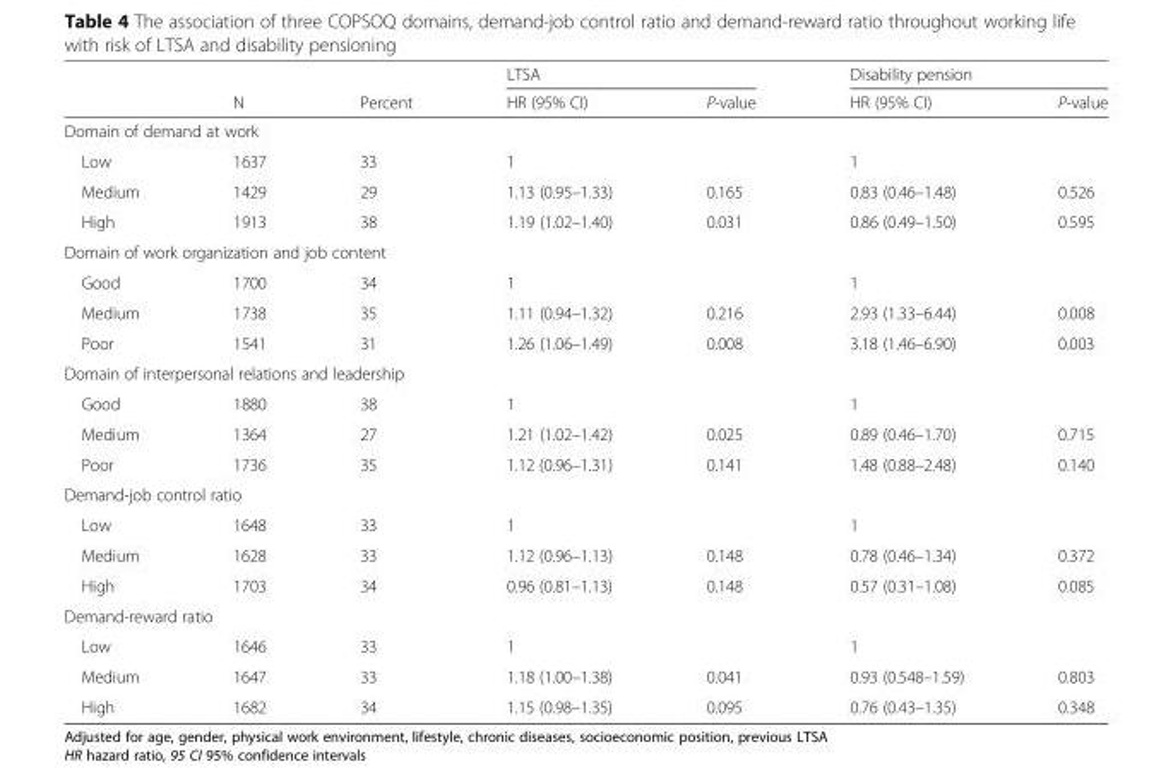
<table><thead><tr><td rowspan="2"></td><td rowspan="2">N</td><td rowspan="2">Percent</td><td colspan="2">LTSA</td><td colspan="2">Disability pension</td></tr><tr><td>HR (95% CI)</td><td>P-value</td><td>HR (95% CI)</td><td>P-value</td></tr></thead><tbody><tr><td colspan="7">Domain of demand at work</td></tr><tr><td>Low</td><td>1637</td><td>33</td><td>1</td><td></td><td>1</td><td></td></tr><tr><td>Medium</td><td>1429</td><td>29</td><td>1.13 (0.95–1.33)</td><td>0.165</td><td>0.83 (0.46–1.48)</td><td>0.526</td></tr><tr><td>High</td><td>1913</td><td>38</td><td>1.19 (1.02–1.40)</td><td>0.031</td><td>0.86 (0.49–1.50)</td><td>0.595</td></tr><tr><td colspan="7">Domain of work organization and job content</td></tr><tr><td>Good</td><td>1700</td><td>34</td><td>1</td><td></td><td>1</td><td></td></tr><tr><td>Medium</td><td>1738</td><td>35</td><td>1.11 (0.94–1.32)</td><td>0.216</td><td>2.93 (1.33–6.44)</td><td>0.008</td></tr><tr><td>Poor</td><td>1541</td><td>31</td><td>1.26 (1.06–1.49)</td><td>0.008</td><td>3.18 (1.46–6.90)</td><td>0.003</td></tr><tr><td colspan="7">Domain of interpersonal relations and leadership</td></tr><tr><td>Good</td><td>1880</td><td>38</td><td>1</td><td></td><td>1</td><td></td></tr><tr><td>Medium</td><td>1364</td><td>27</td><td>1.21 (1.02–1.42)</td><td>0.025</td><td>0.89 (0.46–1.70)</td><td>0.715</td></tr><tr><td>Poor</td><td>1736</td><td>35</td><td>1.12 (0.96–1.31)</td><td>0.141</td><td>1.48 (0.88–2.48)</td><td>0.140</td></tr><tr><td colspan="7">Demand-job control ratio</td></tr><tr><td>Low</td><td>1648</td><td>33</td><td>1</td><td></td><td>1</td><td></td></tr><tr><td>Medium</td><td>1628</td><td>33</td><td>1.12 (0.96–1.13)</td><td>0.148</td><td>0.78 (0.46–1.34)</td><td>0.372</td></tr><tr><td>High</td><td>1703</td><td>34</td><td>0.96 (0.81–1.13)</td><td>0.148</td><td>0.57 (0.31–1.08)</td><td>0.085</td></tr><tr><td colspan="7">Demand-reward ratio</td></tr><tr><td>Low</td><td>1646</td><td>33</td><td>1</td><td></td><td>1</td><td></td></tr><tr><td>Medium</td><td>1647</td><td>33</td><td>1.18 (1.00–1.38)</td><td>0.041</td><td>0.93 (0.548–1.59)</td><td>0.803</td></tr><tr><td>High</td><td>1682</td><td>34</td><td>1.15 (0.98–1.35)</td><td>0.095</td><td>0.76 (0.43–1.35)</td><td>0.348</td></tr></tbody></table>